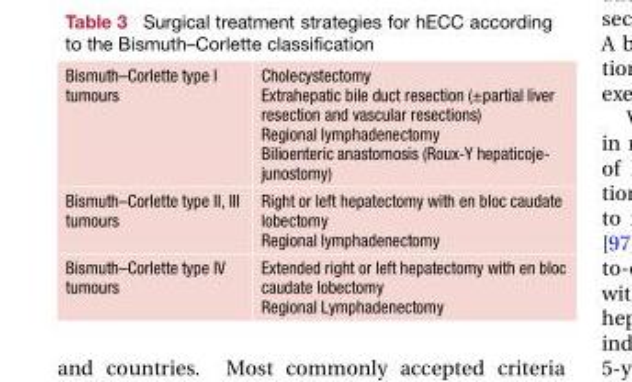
<table><tbody><tr><td>Bismuth–Corlette type I tumours</td><td>Cholecystectomy Extrahepatic bile duct resection (±partial liver resection and vascular resections) Regional lymphadenectomy Bilioenteric anastomosis (Roux-Y hepaticoje- junostomy)</td></tr><tr><td>Bismuth–Corlette type II, III tumours</td><td>Right or left hepatectomy with en bloc caudate lobectomy Regional lymphadenectomy</td></tr><tr><td>Bismuth–Corlette type IV tumours</td><td>Extended right or left hepatectomy with en bloc caudate lobectomy Regional Lymphadenectomy</td></tr></tbody></table>